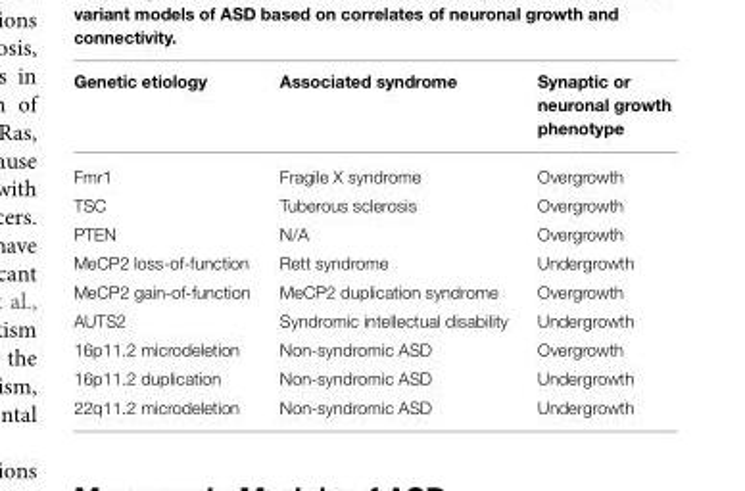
<table><thead><tr><td>Genetic etiology</td><td>Associated syndrome</td><td>Synaptic or neuronal growth phenotype</td></tr></thead><tbody><tr><td>Fmr1</td><td>Fragile X syndrome</td><td>Overgrowth</td></tr><tr><td>TSC</td><td>Tuberous sclerosis</td><td>Overgrowth</td></tr><tr><td>PTEN</td><td>N/A</td><td>Overgrowth</td></tr><tr><td>MeCP2 loss-of-function</td><td>Rett syndrome</td><td>Undergrowth</td></tr><tr><td>MeCP2 gain-of-function</td><td>MeCP2 duplication syndrome</td><td>Overgrowth</td></tr><tr><td>AUTS2</td><td>Syndromic intellectual disability</td><td>Undergrowth</td></tr><tr><td>16p11.2 microdeletion</td><td>Non-syndromic ASD</td><td>Overgrowth</td></tr><tr><td>16p11.2 duplication</td><td>Non-syndromic ASD</td><td>Undergrowth</td></tr><tr><td>22q11.2 microdeletion</td><td>Non-syndromic ASD</td><td>Undergrowth</td></tr></tbody></table>